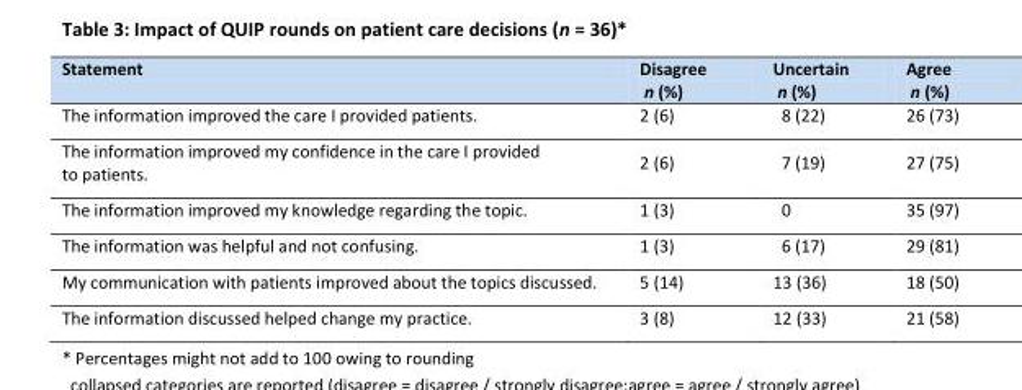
<table><thead><tr><td>Statement</td><td>Disagree n (%)</td><td>Uncertain n (%)</td><td>Agree n (%)</td></tr></thead><tbody><tr><td>The information improved the care I provided patients.</td><td>2 (6)</td><td>8 (22)</td><td>26 (73)</td></tr><tr><td>The information improved my confidence in the care I provided to patients.</td><td>2 (6)</td><td>7 (19)</td><td>27 (75)</td></tr><tr><td>The information improved my knowledge regarding the topic.</td><td>1 (3)</td><td>0</td><td>35 (97)</td></tr><tr><td>The information was helpful and not confusing.</td><td>1 (3)</td><td>6 (17)</td><td>29 (81)</td></tr><tr><td>My communication with patients improved about the topics discussed.</td><td>5 (14)</td><td>13 (36)</td><td>18 (50)</td></tr><tr><td>The information discussed helped change my practice.</td><td>3 (8)</td><td>12 (33)</td><td>21 (58)</td></tr></tbody></table>